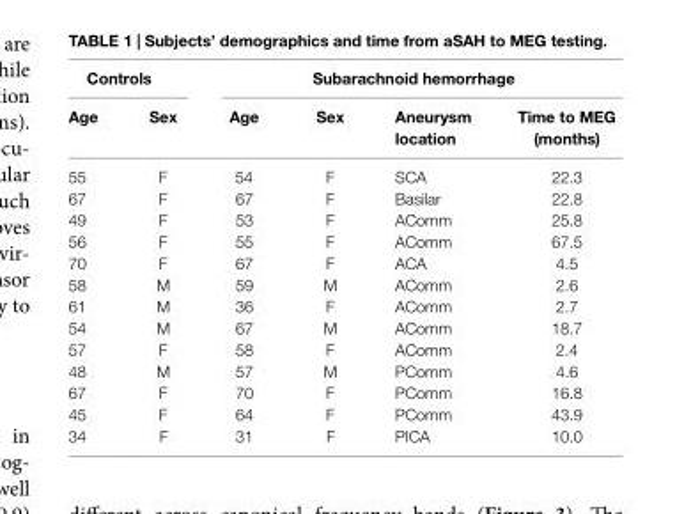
<table><thead><tr><td colspan="2">controls</td><td colspan="4">subarachnoid hemorrhage</td></tr><tr><td>age</td><td>sex</td><td>age</td><td>sex</td><td>aneurysm location</td><td>Time to Meg (months)</td></tr></thead><tbody><tr><td>55</td><td>F</td><td>54</td><td>F</td><td>SCA</td><td>22.3</td></tr><tr><td>67</td><td>F</td><td>67</td><td>F</td><td>Basilar</td><td>22.8</td></tr><tr><td>49</td><td>F</td><td>53</td><td>F</td><td>AComm</td><td>25.8</td></tr><tr><td>56</td><td>F</td><td>55</td><td>F</td><td>AComm</td><td>67.5</td></tr><tr><td>70</td><td>F</td><td>67</td><td>F</td><td>ACA</td><td>4.5</td></tr><tr><td>58</td><td>M</td><td>59</td><td>M</td><td>AComm</td><td>2.6</td></tr><tr><td>61</td><td>M</td><td>36</td><td>F</td><td>AComm</td><td>2.7</td></tr><tr><td>54</td><td>M</td><td>67</td><td>M</td><td>AComm</td><td>18.7</td></tr><tr><td>57</td><td>F</td><td>58</td><td>F</td><td>AComm</td><td>2.4</td></tr><tr><td>48</td><td>M</td><td>57</td><td>M</td><td>PComm</td><td>4.6</td></tr><tr><td>67</td><td>F</td><td>70</td><td>F</td><td>PComm</td><td>16.8</td></tr><tr><td>45</td><td>F</td><td>64</td><td>F</td><td>PComm</td><td>43.9</td></tr><tr><td>34</td><td>F</td><td>31</td><td>F</td><td>PICA</td><td>10.0</td></tr></tbody></table>